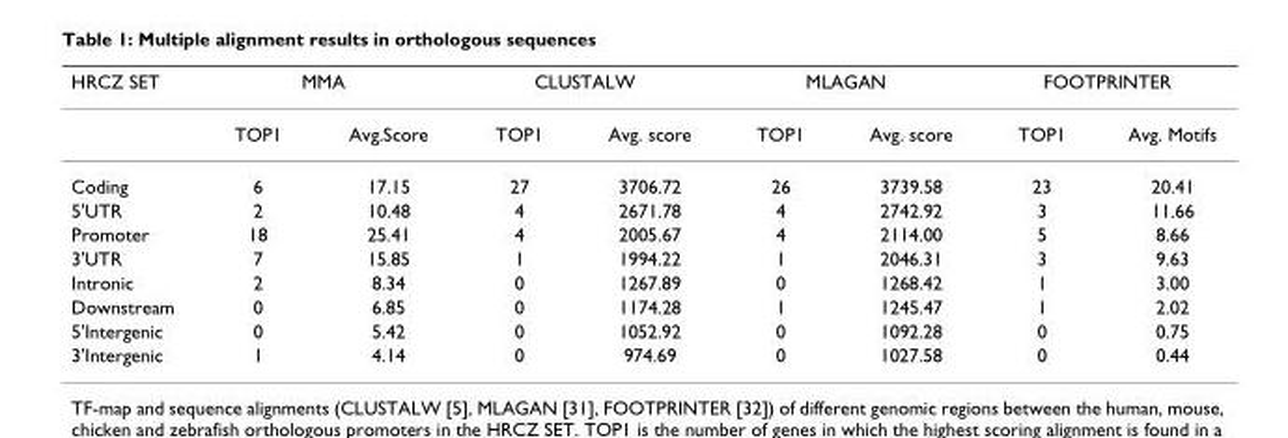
<table><thead><tr><td rowspan="2">HRCZ SET</td><td colspan="2">MMA</td><td colspan="2">CLUSTALW</td><td colspan="2">MLAGAN</td><td colspan="2">FOOTPRINTER</td></tr><tr><td>TOP1</td><td>Avg.Score</td><td>TOP1</td><td>Avg. score</td><td>TOP1</td><td>Avg. score</td><td>TOP1</td><td>Avg. Motifs</td></tr></thead><tbody><tr><td>Coding</td><td>6</td><td>17.15</td><td>27</td><td>3706.72</td><td>26</td><td>3739.58</td><td>23</td><td>20.41</td></tr><tr><td>5&#x27;UTR</td><td>2</td><td>10.48</td><td>4</td><td>2671.78</td><td>4</td><td>2742.92</td><td>3</td><td>11.66</td></tr><tr><td>Promoter</td><td>18</td><td>25.41</td><td>4</td><td>2005.67</td><td>4</td><td>2114.00</td><td>5</td><td>8.66</td></tr><tr><td>3&#x27;UTR</td><td>7</td><td>15.85</td><td>1</td><td>1994.22</td><td>1</td><td>2046.31</td><td>3</td><td>9.63</td></tr><tr><td>Intronic</td><td>2</td><td>8.34</td><td>0</td><td>1267.89</td><td>0</td><td>1268.42</td><td>1</td><td>3.00</td></tr><tr><td>Downstream</td><td>0</td><td>6.85</td><td>0</td><td>1174.28</td><td>1</td><td>1245.47</td><td>1</td><td>2.02</td></tr><tr><td>5&#x27;Intergenic</td><td>0</td><td>5.42</td><td>0</td><td>1052.92</td><td>0</td><td>1092.28</td><td>0</td><td>0.75</td></tr><tr><td>3&#x27;Intergenic</td><td>1</td><td>4.14</td><td>0</td><td>974.69</td><td>0</td><td>1027.58</td><td>0</td><td>0.44</td></tr></tbody></table>